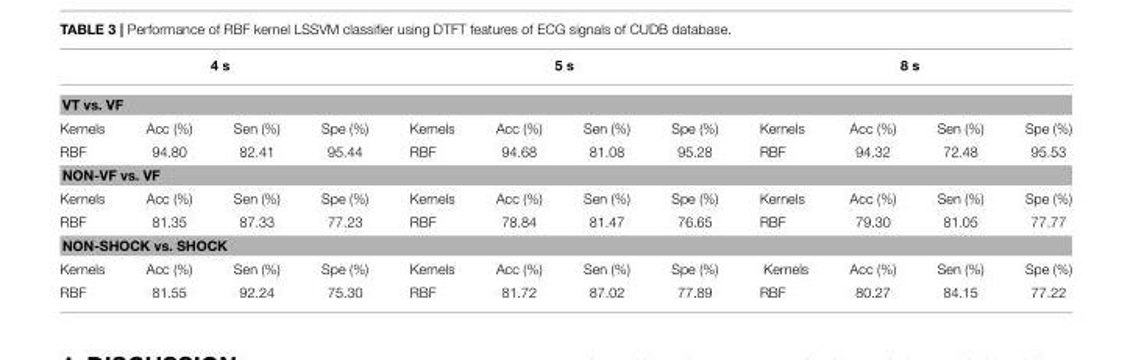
<table><thead><tr><td colspan="4">4 s</td><td colspan="4">5 s</td><td colspan="4">8 s</td></tr><tr><td colspan="12">VT vs. VF</td></tr><tr><td>Kernels</td><td>Acc (%)</td><td>Sen (%)</td><td>Spe (%)</td><td>Kernels</td><td>Acc (%)</td><td>Sen (%)</td><td>Spe (%)</td><td>Kernels</td><td>Acc (%)</td><td>Sen (%)</td><td>Spe (%)</td></tr></thead><tbody><tr><td>RBF</td><td>94.80</td><td>82.41</td><td>95.44</td><td>RBF</td><td>94.68</td><td>81.08</td><td>95.28</td><td>RBF</td><td>94.32</td><td>72.48</td><td>95.53</td></tr><tr><td colspan="12">NON-VF vs. VF</td></tr><tr><td>Kernels</td><td>Acc (%)</td><td>Sen (%)</td><td>Spe (%)</td><td>Kernels</td><td>Acc (%)</td><td>Sen (%)</td><td>Spe (%)</td><td>Kernels</td><td>Acc (%)</td><td>Sen (%)</td><td>Spe (%)</td></tr><tr><td>RBF</td><td>81.35</td><td>87.33</td><td>77.23</td><td>RBF</td><td>78.84</td><td>81.47</td><td>76.65</td><td>RBF</td><td>79.30</td><td>81.05</td><td>77.77</td></tr><tr><td colspan="12">NON-SHOCK vs. SHOCK</td></tr><tr><td>Kernels</td><td>Acc (%)</td><td>Sen (%)</td><td>Spe (%)</td><td>Kernels</td><td>Acc (%)</td><td>Sen (%)</td><td>Spe (%)</td><td>Kernels</td><td>Acc (%)</td><td>Sen (%)</td><td>Spe (%)</td></tr><tr><td>RBF</td><td>81.55</td><td>92.24</td><td>75.30</td><td>RBF</td><td>81.72</td><td>87.02</td><td>77.89</td><td>RBF</td><td>80.27</td><td>84.15</td><td>77.22</td></tr></tbody></table>